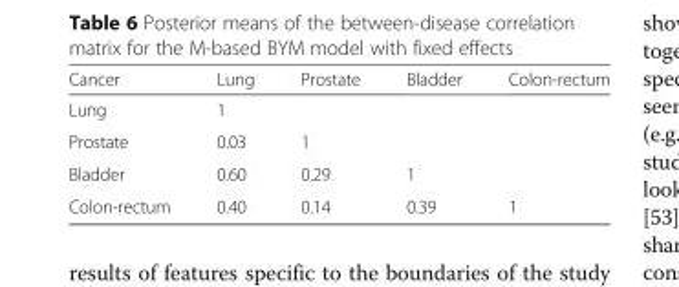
<table><thead><tr><td>Cancer</td><td>Lung</td><td>Prostate</td><td>Bladder</td><td>Colon-rectum</td></tr></thead><tbody><tr><td>Lung</td><td>1</td><td></td><td></td><td></td></tr><tr><td>Prostate</td><td>0.03</td><td>1</td><td></td><td></td></tr><tr><td>Bladder</td><td>0.60</td><td>0.29</td><td>1</td><td></td></tr><tr><td>Colon-rectum</td><td>0.40</td><td>0.14</td><td>0.39</td><td>1</td></tr></tbody></table>